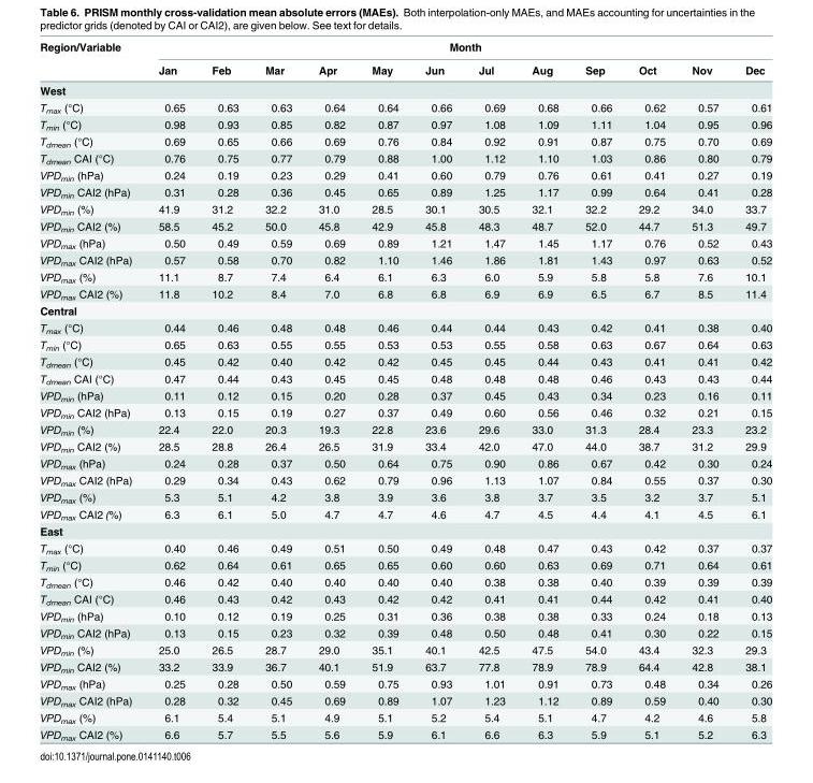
<table><thead><tr><td rowspan="2">Region/Variable</td><td colspan="12">Month</td></tr><tr><td>Jan</td><td>Feb</td><td>Mar</td><td>Apr</td><td>May</td><td>Jun</td><td>Jul</td><td>Aug</td><td>Sep</td><td>Oct</td><td>Nov</td><td>Dec</td></tr></thead><tbody><tr><td colspan="13">West</td></tr><tr><td>T<sub>max</sub> (°C)</td><td>0.65</td><td>0.63</td><td>0.63</td><td>0.64</td><td>0.64</td><td>0.66</td><td>0.69</td><td>0.68</td><td>0.66</td><td>0.62</td><td>0.57</td><td>0.61</td></tr><tr><td>T<sub>min</sub> (°C)</td><td>0.98</td><td>0.93</td><td>0.85</td><td>0.82</td><td>0.87</td><td>0.97</td><td>1.08</td><td>1.09</td><td>1.11</td><td>1.04</td><td>0.95</td><td>0.96</td></tr><tr><td>T<sub>dmean</sub> (°C)</td><td>0.69</td><td>0.65</td><td>0.66</td><td>0.69</td><td>0.76</td><td>0.84</td><td>0.92</td><td>0.91</td><td>0.87</td><td>0.75</td><td>0.70</td><td>0.69</td></tr><tr><td>T<sub>dmean</sub> CAI (°C)</td><td>0.76</td><td>0.75</td><td>0.77</td><td>0.79</td><td>0.88</td><td>1.00</td><td>1.12</td><td>1.10</td><td>1.03</td><td>0.86</td><td>0.80</td><td>0.79</td></tr><tr><td>VPD<sub>min</sub> (hPa)</td><td>0.24</td><td>0.19</td><td>0.23</td><td>0.29</td><td>0.41</td><td>0.60</td><td>0.79</td><td>0.76</td><td>0.61</td><td>0.41</td><td>0.27</td><td>0.19</td></tr><tr><td>VPD<sub>min</sub> CAI2 (hPa)</td><td>0.31</td><td>0.28</td><td>0.36</td><td>0.45</td><td>0.65</td><td>0.89</td><td>1.25</td><td>1.17</td><td>0.99</td><td>0.64</td><td>0.41</td><td>0.28</td></tr><tr><td>VPD<sub>min</sub> (%)</td><td>41.9</td><td>31.2</td><td>32.2</td><td>31.0</td><td>28.5</td><td>30.1</td><td>30.5</td><td>32.1</td><td>32.2</td><td>29.2</td><td>34.0</td><td>33.7</td></tr><tr><td>VPD<sub>min</sub> CAI2 (%)</td><td>58.5</td><td>45.2</td><td>50.0</td><td>45.8</td><td>42.9</td><td>45.8</td><td>48.3</td><td>48.7</td><td>52.0</td><td>44.7</td><td>51.3</td><td>49.7</td></tr><tr><td>VPD<sub>max</sub> (hPa)</td><td>0.50</td><td>0.49</td><td>0.59</td><td>0.69</td><td>0.89</td><td>1.21</td><td>1.47</td><td>1.45</td><td>1.17</td><td>0.76</td><td>0.52</td><td>0.43</td></tr><tr><td>VPD<sub>max</sub> CAI2 (hPa)</td><td>0.57</td><td>0.58</td><td>0.70</td><td>0.82</td><td>1.10</td><td>1.46</td><td>1.86</td><td>1.81</td><td>1.43</td><td>0.97</td><td>0.63</td><td>0.52</td></tr><tr><td>VPD<sub>max</sub> (%)</td><td>11.1</td><td>8.7</td><td>7.4</td><td>6.4</td><td>6.1</td><td>6.3</td><td>6.0</td><td>5.9</td><td>5.8</td><td>5.8</td><td>7.6</td><td>10.1</td></tr><tr><td>VPD<sub>max</sub> CAI2 (%)</td><td>11.8</td><td>10.2</td><td>8.4</td><td>7.0</td><td>6.8</td><td>6.8</td><td>6.9</td><td>6.9</td><td>6.5</td><td>6.7</td><td>8.5</td><td>11.4</td></tr><tr><td colspan="13">Central</td></tr><tr><td>T<sub>max</sub> (°C)</td><td>0.44</td><td>0.46</td><td>0.48</td><td>0.48</td><td>0.46</td><td>0.44</td><td>0.44</td><td>0.43</td><td>0.42</td><td>0.41</td><td>0.38</td><td>0.40</td></tr><tr><td>T<sub>min</sub> (°C)</td><td>0.65</td><td>0.63</td><td>0.55</td><td>0.55</td><td>0.53</td><td>0.53</td><td>0.55</td><td>0.58</td><td>0.63</td><td>0.67</td><td>0.64</td><td>0.63</td></tr><tr><td>T<sub>dmean</sub> (°C)</td><td>0.45</td><td>0.42</td><td>0.40</td><td>0.42</td><td>0.42</td><td>0.45</td><td>0.45</td><td>0.44</td><td>0.43</td><td>0.41</td><td>0.41</td><td>0.42</td></tr><tr><td>T<sub>dmean</sub> CAI (°C)</td><td>0.47</td><td>0.44</td><td>0.43</td><td>0.45</td><td>0.45</td><td>0.48</td><td>0.48</td><td>0.48</td><td>0.46</td><td>0.43</td><td>0.43</td><td>0.44</td></tr><tr><td>VPD<sub>min</sub> (hPa)</td><td>0.11</td><td>0.12</td><td>0.15</td><td>0.20</td><td>0.28</td><td>0.37</td><td>0.45</td><td>0.43</td><td>0.34</td><td>0.23</td><td>0.16</td><td>0.11</td></tr><tr><td>VPD<sub>min</sub> CAI2 (hPa)</td><td>0.13</td><td>0.15</td><td>0.19</td><td>0.27</td><td>0.37</td><td>0.49</td><td>0.60</td><td>0.56</td><td>0.46</td><td>0.32</td><td>0.21</td><td>0.15</td></tr><tr><td>VPD<sub>min</sub> (%)</td><td>22.4</td><td>22.0</td><td>20.3</td><td>19.3</td><td>22.8</td><td>23.6</td><td>29.6</td><td>33.0</td><td>31.3</td><td>28.4</td><td>23.3</td><td>23.2</td></tr><tr><td>VPD<sub>min</sub> CAI2 (%)</td><td>28.5</td><td>28.8</td><td>26.4</td><td>26.5</td><td>31.9</td><td>33.4</td><td>42.0</td><td>47.0</td><td>44.0</td><td>38.7</td><td>31.2</td><td>29.9</td></tr><tr><td>VPD<sub>max</sub> (hPa)</td><td>0.24</td><td>0.28</td><td>0.37</td><td>0.50</td><td>0.64</td><td>0.75</td><td>0.90</td><td>0.86</td><td>0.67</td><td>0.42</td><td>0.30</td><td>0.24</td></tr><tr><td>VPD<sub>max</sub> CAI2 (hPa)</td><td>0.29</td><td>0.34</td><td>0.43</td><td>0.62</td><td>0.79</td><td>0.96</td><td>1.13</td><td>1.07</td><td>0.84</td><td>0.55</td><td>0.37</td><td>0.30</td></tr><tr><td>VPD<sub>max</sub> (%)</td><td>5.3</td><td>5.1</td><td>4.2</td><td>3.8</td><td>3.9</td><td>3.6</td><td>3.8</td><td>3.7</td><td>3.5</td><td>3.2</td><td>3.7</td><td>5.1</td></tr><tr><td>VPD<sub>max</sub> CAI2 (%)</td><td>6.3</td><td>6.1</td><td>5.0</td><td>4.7</td><td>4.7</td><td>4.6</td><td>4.7</td><td>4.5</td><td>4.4</td><td>4.1</td><td>4.5</td><td>6.1</td></tr><tr><td colspan="13">East</td></tr><tr><td>T<sub>max</sub> (°C)</td><td>0.40</td><td>0.46</td><td>0.49</td><td>0.51</td><td>0.50</td><td>0.49</td><td>0.48</td><td>0.47</td><td>0.43</td><td>0.42</td><td>0.37</td><td>0.37</td></tr><tr><td>T<sub>min</sub> (°C)</td><td>0.62</td><td>0.64</td><td>0.61</td><td>0.65</td><td>0.65</td><td>0.60</td><td>0.60</td><td>0.63</td><td>0.69</td><td>0.71</td><td>0.64</td><td>0.61</td></tr><tr><td>T<sub>dmean</sub> (°C)</td><td>0.46</td><td>0.42</td><td>0.40</td><td>0.40</td><td>0.40</td><td>0.40</td><td>0.38</td><td>0.38</td><td>0.40</td><td>0.39</td><td>0.39</td><td>0.39</td></tr><tr><td>T<sub>dmean</sub> CAI (°C)</td><td>0.46</td><td>0.43</td><td>0.42</td><td>0.43</td><td>0.42</td><td>0.42</td><td>0.41</td><td>0.41</td><td>0.44</td><td>0.42</td><td>0.41</td><td>0.40</td></tr><tr><td>VPD<sub>min</sub> (hPa)</td><td>0.10</td><td>0.12</td><td>0.19</td><td>0.25</td><td>0.31</td><td>0.36</td><td>0.38</td><td>0.38</td><td>0.33</td><td>0.24</td><td>0.18</td><td>0.13</td></tr><tr><td>VPD<sub>min</sub> CAI2 (hPa)</td><td>0.13</td><td>0.15</td><td>0.23</td><td>0.32</td><td>0.39</td><td>0.48</td><td>0.50</td><td>0.48</td><td>0.41</td><td>0.30</td><td>0.22</td><td>0.15</td></tr><tr><td>VPD<sub>min</sub> (%)</td><td>25.0</td><td>26.5</td><td>28.7</td><td>29.0</td><td>35.1</td><td>40.1</td><td>42.5</td><td>47.5</td><td>54.0</td><td>43.4</td><td>32.3</td><td>29.3</td></tr><tr><td>VPD<sub>min</sub> CAI2 (%)</td><td>33.2</td><td>33.9</td><td>36.7</td><td>40.1</td><td>51.9</td><td>63.7</td><td>77.8</td><td>78.9</td><td>78.9</td><td>64.4</td><td>42.8</td><td>38.1</td></tr><tr><td>VPD<sub>max</sub> (hPa)</td><td>0.25</td><td>0.28</td><td>0.50</td><td>0.59</td><td>0.75</td><td>0.93</td><td>1.01</td><td>0.91</td><td>0.73</td><td>0.48</td><td>0.34</td><td>0.26</td></tr><tr><td>VPD<sub>max</sub> CAI2 (hPa)</td><td>0.28</td><td>0.32</td><td>0.45</td><td>0.69</td><td>0.89</td><td>1.07</td><td>1.23</td><td>1.12</td><td>0.89</td><td>0.59</td><td>0.40</td><td>0.30</td></tr><tr><td>VPD<sub>max</sub> (%)</td><td>6.1</td><td>5.4</td><td>5.1</td><td>4.9</td><td>5.1</td><td>5.2</td><td>5.4</td><td>5.1</td><td>4.7</td><td>4.2</td><td>4.6</td><td>5.8</td></tr><tr><td>VPD<sub>max</sub> CAI2 (%)</td><td>6.6</td><td>5.7</td><td>5.5</td><td>5.6</td><td>5.9</td><td>6.1</td><td>6.6</td><td>6.3</td><td>5.9</td><td>5.1</td><td>5.2</td><td>6.3</td></tr></tbody></table>